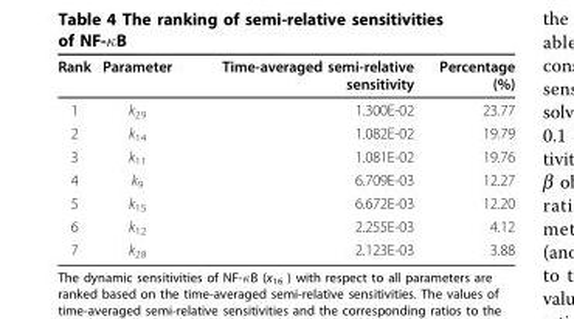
<table><thead><tr><td>Rank</td><td>Parameter</td><td>Time-averaged semi-relative sensitivity</td><td>Percentage (%)</td></tr></thead><tbody><tr><td>1</td><td>k<sub>29</sub></td><td>1.300E-02</td><td>23.77</td></tr><tr><td>2</td><td>k<sub>14</sub></td><td>1.082E-02</td><td>19.79</td></tr><tr><td>3</td><td>k<sub>11</sub></td><td>1.081E-02</td><td>19.76</td></tr><tr><td>4</td><td>k<sub>9</sub></td><td>6.709E-03</td><td>12.27</td></tr><tr><td>5</td><td>k<sub>15</sub></td><td>6.672E-03</td><td>12.20</td></tr><tr><td>6</td><td>k<sub>12</sub></td><td>2.255E-03</td><td>4.12</td></tr><tr><td>7</td><td>k<sub>28</sub></td><td>2.123E-03</td><td>3.88</td></tr></tbody></table>